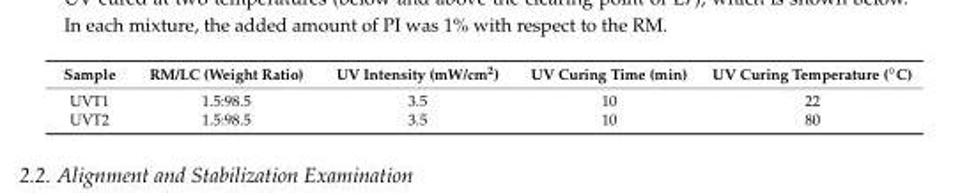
<table><thead><tr><td>Sample</td><td>RM/LC (Weight Ratio)</td><td>UV Intensity (mW/cm<sup>2</sup>)</td><td>UV Curing Time (min)</td><td>UV Curing Temperature (◦C)</td></tr></thead><tbody><tr><td>UVT1</td><td>1.5:98.5</td><td>3.5</td><td>10</td><td>22</td></tr><tr><td>UVT2</td><td>1.5:98.5</td><td>3.5</td><td>10</td><td>80</td></tr></tbody></table>